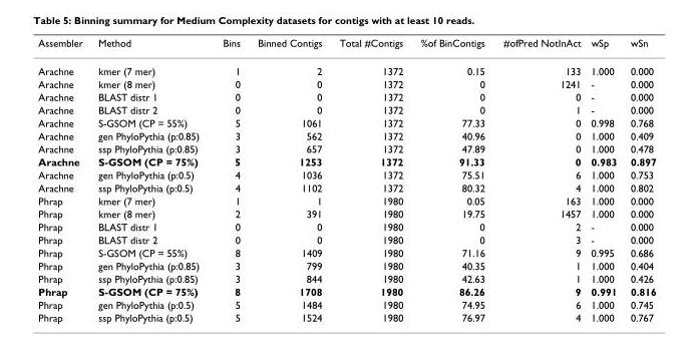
<table><thead><tr><td>Assembler</td><td>Method</td><td>Bins</td><td>Binned Contigs</td><td>Total #Contigs</td><td>%of BinContigs</td><td>#ofPred NotInAct</td><td>wSp</td><td>wSn</td></tr></thead><tbody><tr><td>Arachne</td><td>kmer (7 mer)</td><td>1</td><td>2</td><td>1372</td><td>0.15</td><td>133</td><td>1.000</td><td>0.000</td></tr><tr><td>Arachne</td><td>kmer (8 mer)</td><td>0</td><td>0</td><td>1372</td><td>0</td><td>1241</td><td>-</td><td>0.000</td></tr><tr><td>Arachne</td><td>BLAST distr 1</td><td>0</td><td>0</td><td>1372</td><td>0</td><td>0</td><td>-</td><td>0.000</td></tr><tr><td>Arachne</td><td>BLAST distr 2</td><td>0</td><td>0</td><td>1372</td><td>0</td><td>1</td><td>-</td><td>0.000</td></tr><tr><td>Arachne</td><td>S-GSOM (CP = 55%)</td><td>5</td><td>1061</td><td>1372</td><td>77.33</td><td>0</td><td>0.998</td><td>0.768</td></tr><tr><td>Arachne</td><td>gen PhyloPythia (p:0.85)</td><td>3</td><td>562</td><td>1372</td><td>40.96</td><td>0</td><td>1.000</td><td>0.409</td></tr><tr><td>Arachne</td><td>ssp PhyloPythia (p:0.85)</td><td>3</td><td>657</td><td>1372</td><td>47.89</td><td>0</td><td>1.000</td><td>0.478</td></tr><tr><td>Arachne</td><td>S-GSOM (CP = 75%)</td><td>5</td><td>1253</td><td>1372</td><td>91.33</td><td>0</td><td>0.983</td><td>0.897</td></tr><tr><td>Arachne</td><td>gen PhyloPythia (p:0.5)</td><td>4</td><td>1036</td><td>1372</td><td>75.51</td><td>6</td><td>1.000</td><td>0.753</td></tr><tr><td>Arachne</td><td>ssp PhyloPythia (p:0.5)</td><td>4</td><td>1102</td><td>1372</td><td>80.32</td><td>4</td><td>1.000</td><td>0.802</td></tr><tr><td>Phrap</td><td>kmer (7 mer)</td><td>1</td><td>1</td><td>1980</td><td>0.05</td><td>163</td><td>1.000</td><td>0.000</td></tr><tr><td>Phrap</td><td>kmer (8 mer)</td><td>2</td><td>391</td><td>1980</td><td>19.75</td><td>1457</td><td>1.000</td><td>0.000</td></tr><tr><td>Phrap</td><td>BLAST distr 1</td><td>0</td><td>0</td><td>1980</td><td>0</td><td>2</td><td>-</td><td>0.000</td></tr><tr><td>Phrap</td><td>BLAST distr 2</td><td>0</td><td>0</td><td>1980</td><td>0</td><td>3</td><td>-</td><td>0.000</td></tr><tr><td>Phrap</td><td>S-GSOM (CP = 55%)</td><td>8</td><td>1409</td><td>1980</td><td>71.16</td><td>9</td><td>0.995</td><td>0.686</td></tr><tr><td>Phrap</td><td>gen PhyloPythia (p:0.85)</td><td>3</td><td>799</td><td>1980</td><td>40.35</td><td>1</td><td>1.000</td><td>0.404</td></tr><tr><td>Phrap</td><td>ssp PhyloPythia (p:0.85)</td><td>3</td><td>844</td><td>1980</td><td>42.63</td><td>1</td><td>1.000</td><td>0.426</td></tr><tr><td>Phrap</td><td>S-GSOM (CP = 75%)</td><td>8</td><td>1708</td><td>1980</td><td>86.26</td><td>9</td><td>0.991</td><td>0.816</td></tr><tr><td>Phrap</td><td>gen PhyloPythia (p:0.5)</td><td>5</td><td>1484</td><td>1980</td><td>74.95</td><td>6</td><td>1.000</td><td>0.745</td></tr><tr><td>Phrap</td><td>ssp PhyloPythia (p:0.5)</td><td>5</td><td>1524</td><td>1980</td><td>76.97</td><td>4</td><td>1.000</td><td>0.767</td></tr></tbody></table>